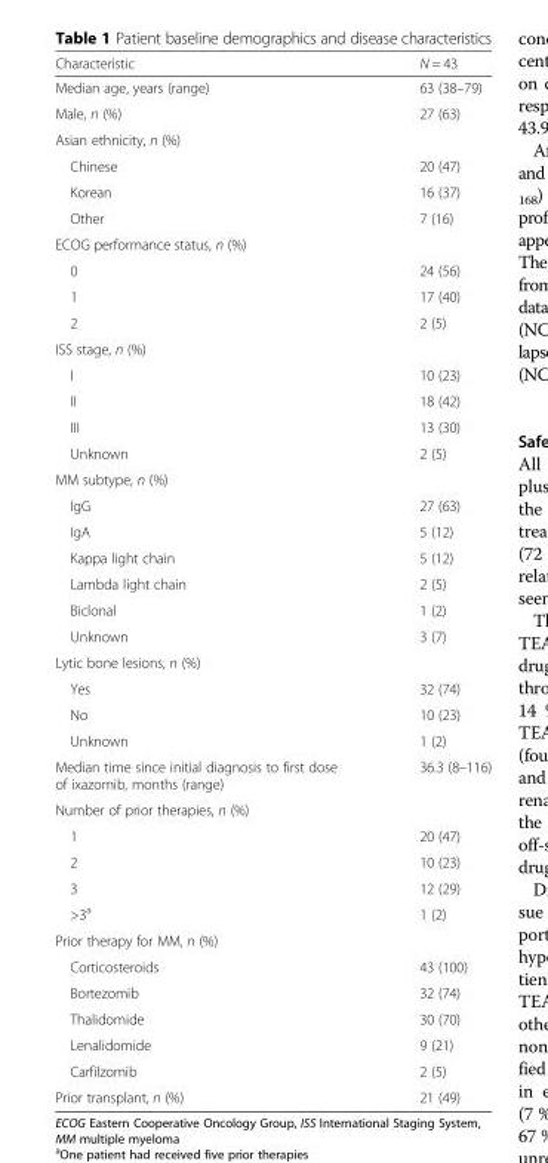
<table><thead><tr><td>Characteristic</td><td>N = 43</td></tr></thead><tbody><tr><td>Median age, years (range)</td><td>63 (38–79)</td></tr><tr><td>Male, n (%)</td><td>27 (63)</td></tr><tr><td colspan="2">Asian ethnicity, n (%)</td></tr><tr><td>Chinese</td><td>20 (47)</td></tr><tr><td>Korean</td><td>16 (37)</td></tr><tr><td>Other</td><td>7 (16)</td></tr><tr><td colspan="2">ECOG performance status, n (%)</td></tr><tr><td>0</td><td>24 (56)</td></tr><tr><td>1</td><td>17 (40)</td></tr><tr><td>2</td><td>2 (5)</td></tr><tr><td colspan="2">ISS stage, n (%)</td></tr><tr><td>I</td><td>10 (23)</td></tr><tr><td>II</td><td>18 (42)</td></tr><tr><td>III</td><td>13 (30)</td></tr><tr><td>Unknown</td><td>2 (5)</td></tr><tr><td colspan="2">MM subtype, n (%)</td></tr><tr><td>IgG</td><td>27 (63)</td></tr><tr><td>IgA</td><td>5 (12)</td></tr><tr><td>Kappa light chain</td><td>5 (12)</td></tr><tr><td>Lambda light chain</td><td>2 (5)</td></tr><tr><td>Biclonal</td><td>1 (2)</td></tr><tr><td>Unknown</td><td>3 (7)</td></tr><tr><td colspan="2">Lytic bone lesions, n (%)</td></tr><tr><td>Yes</td><td>32 (74)</td></tr><tr><td>No</td><td>10 (23)</td></tr><tr><td>Unknown</td><td>1 (2)</td></tr><tr><td>Median time since initial diagnosis to first dose of ixazomib, months (range)</td><td>36.3 (8–116)</td></tr><tr><td colspan="2">Number of prior therapies, n (%)</td></tr><tr><td>1</td><td>20 (47)</td></tr><tr><td>2</td><td>10 (23)</td></tr><tr><td>3</td><td>12 (29)</td></tr><tr><td>&gt;3<sup>a</sup></td><td>1 (2)</td></tr><tr><td colspan="2">Prior therapy for MM, n (%)</td></tr><tr><td>Corticosteroids</td><td>43 (100)</td></tr><tr><td>Bortezomib</td><td>32 (74)</td></tr><tr><td>Thalidomide</td><td>30 (70)</td></tr><tr><td>Lenalidomide</td><td>9 (21)</td></tr><tr><td>Carfilzomib</td><td>2 (5)</td></tr><tr><td>Prior transplant, n (%)</td><td>21 (49)</td></tr></tbody></table>